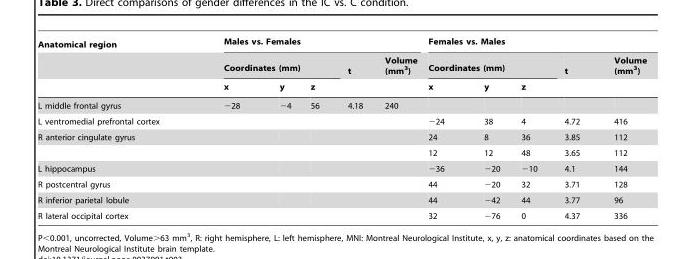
<table><thead><tr><td rowspan="3">Anatomical region</td><td colspan="5">Males vs. Females</td><td colspan="5">Females vs. Males</td></tr><tr><td colspan="3">Coordinates (mm)</td><td rowspan="2">t</td><td rowspan="2">Volume (mm<sup>3</sup>)</td><td colspan="3">Coordinates (mm)</td><td rowspan="2">t</td><td rowspan="2">Volume (mm<sup>3</sup>)</td></tr><tr><td>x</td><td>y</td><td>z</td><td>x</td><td>y</td><td>z</td></tr></thead><tbody><tr><td>L middle frontal gyrus</td><td>−28</td><td>−4</td><td>56</td><td>4.18</td><td>240</td><td></td><td></td><td></td><td></td><td></td></tr><tr><td>L ventromedial prefrontal cortex</td><td></td><td></td><td></td><td></td><td></td><td>−24</td><td>38</td><td>4</td><td>4.72</td><td>416</td></tr><tr><td rowspan="2">R anterior cingulate gyrus</td><td></td><td></td><td></td><td></td><td></td><td>24</td><td>8</td><td>36</td><td>3.85</td><td>112</td></tr><tr><td></td><td></td><td></td><td></td><td></td><td>12</td><td>12</td><td>48</td><td>3.65</td><td>112</td></tr><tr><td>L hippocampus</td><td></td><td></td><td></td><td></td><td></td><td>−36</td><td>−20</td><td>−10</td><td>4.1</td><td>144</td></tr><tr><td>R postcentral gyrus</td><td></td><td></td><td></td><td></td><td></td><td>44</td><td>−20</td><td>32</td><td>3.71</td><td>128</td></tr><tr><td>R inferior parietal lobule</td><td></td><td></td><td></td><td></td><td></td><td>44</td><td>−42</td><td>44</td><td>3.77</td><td>96</td></tr><tr><td>R lateral occipital cortex</td><td></td><td></td><td></td><td></td><td></td><td>32</td><td>−76</td><td>0</td><td>4.37</td><td>336</td></tr></tbody></table>